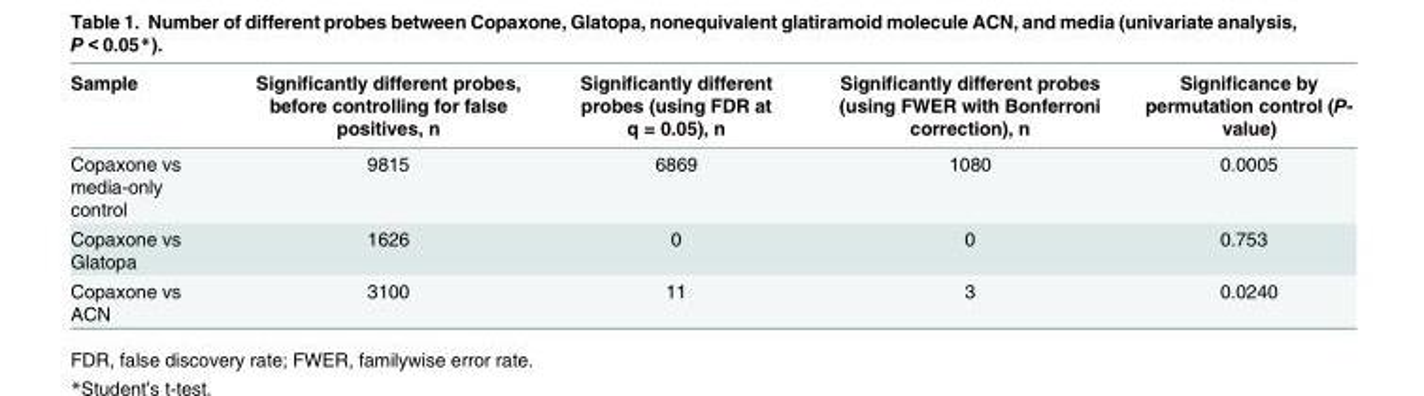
<table><thead><tr><td>Sample</td><td>Significantly different probes, before controlling for false positives, n</td><td>Significantly different probes (using FDR at q = 0.05), n</td><td>Significantly different probes (using FWER with Bonferroni correction), n</td><td>Significance by permutation control (P- value)</td></tr></thead><tbody><tr><td>Copaxone vs media-only control</td><td>9815</td><td>6869</td><td>1080</td><td>0.0005</td></tr><tr><td>Copaxone vs Glatopa</td><td>1626</td><td>0</td><td>0</td><td>0.753</td></tr><tr><td>Copaxone vs ACN</td><td>3100</td><td>11</td><td>3</td><td>0.0240</td></tr></tbody></table>